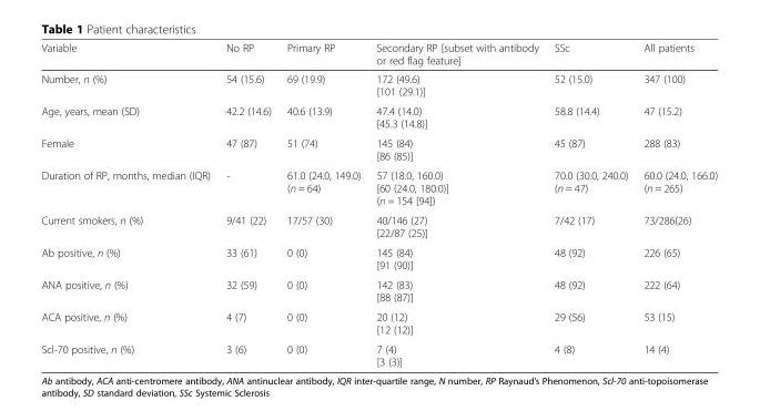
<table><thead><tr><td>Variable</td><td>No RP</td><td>Primary RP</td><td>Secondary RP [subset with antibody or red flag feature]</td><td>SSc</td><td>All patients</td></tr></thead><tbody><tr><td>Number, n (%)</td><td>54 (15.6)</td><td>69 (19.9)</td><td>172 (49.6) [101 (29.1)]</td><td>52 (15.0)</td><td>347 (100)</td></tr><tr><td>Age, years, mean (SD)</td><td>42.2 (14.6)</td><td>40.6 (13.9)</td><td>47.4 (14.0) [45.3 (14.8)]</td><td>58.8 (14.4)</td><td>47 (15.2)</td></tr><tr><td>Female</td><td>47 (87)</td><td>51 (74)</td><td>145 (84) [86 (85)]</td><td>45 (87)</td><td>288 (83)</td></tr><tr><td>Duration of RP, months, median (IQR)</td><td>-</td><td>61.0 (24.0, 149.0) (n = 64)</td><td>57 (18.0, 160.0) [60 (24.0, 180.0)] (n = 154 [94])</td><td>70.0 (30.0, 240.0) (n = 47)</td><td>60.0 (24.0, 166.0) (n = 265)</td></tr><tr><td>Current smokers, n (%)</td><td>9/41 (22)</td><td>17/57 (30)</td><td>40/146 (27) [22/87 (25)]</td><td>7/42 (17)</td><td>73/286(26)</td></tr><tr><td>Ab positive, n (%)</td><td>33 (61)</td><td>0 (0)</td><td>145 (84) [91 (90)]</td><td>48 (92)</td><td>226 (65)</td></tr><tr><td>ANA positive, n (%)</td><td>32 (59)</td><td>0 (0)</td><td>142 (83) [88 (87)]</td><td>48 (92)</td><td>222 (64)</td></tr><tr><td>ACA positive, n (%)</td><td>4 (7)</td><td>0 (0)</td><td>20 (12) [12 (12)]</td><td>29 (56)</td><td>53 (15)</td></tr><tr><td>Scl-70 positive, n (%)</td><td>3 (6)</td><td>0 (0)</td><td>7 (4) [3 (3)]</td><td>4 (8)</td><td>14 (4)</td></tr></tbody></table>